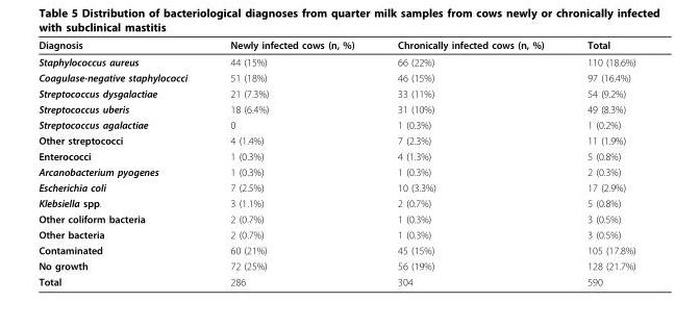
<table><thead><tr><td>Diagnosis</td><td>Newly infected cows (n, %)</td><td>Chronically infected cows (n, %)</td><td>Total</td></tr></thead><tbody><tr><td>Staphylococcus aureus</td><td>44 (15%)</td><td>66 (22%)</td><td>110 (18.6%)</td></tr><tr><td>Coagulase-negative staphylococci</td><td>51 (18%)</td><td>46 (15%)</td><td>97 (16.4%)</td></tr><tr><td>Streptococcus dysgalactiae</td><td>21 (7.3%)</td><td>33 (11%)</td><td>54 (9.2%)</td></tr><tr><td>Streptococcus uberis</td><td>18 (6.4%)</td><td>31 (10%)</td><td>49 (8.3%)</td></tr><tr><td>Streptococcus agalactiae</td><td>0</td><td>1 (0.3%)</td><td>1 (0.2%)</td></tr><tr><td>Other streptococci</td><td>4 (1.4%)</td><td>7 (2.3%)</td><td>11 (1.9%)</td></tr><tr><td>Enterococci</td><td>1 (0.3%)</td><td>4 (1.3%)</td><td>5 (0.8%)</td></tr><tr><td>Arcanobacterium pyogenes</td><td>1 (0.3%)</td><td>1 (0.3%)</td><td>2 (0.3%)</td></tr><tr><td>Escherichia coli</td><td>7 (2.5%)</td><td>10 (3.3%)</td><td>17 (2.9%)</td></tr><tr><td>Klebsiella spp.</td><td>3 (1.1%)</td><td>2 (0.7%)</td><td>5 (0.8%)</td></tr><tr><td>Other coliform bacteria</td><td>2 (0.7%)</td><td>1 (0.3%)</td><td>3 (0.5%)</td></tr><tr><td>Other bacteria</td><td>2 (0.7%)</td><td>1 (0.3%)</td><td>3 (0.5%)</td></tr><tr><td>Contaminated</td><td>60 (21%)</td><td>45 (15%)</td><td>105 (17.8%)</td></tr><tr><td>No growth</td><td>72 (25%)</td><td>56 (19%)</td><td>128 (21.7%)</td></tr><tr><td>Total</td><td>286</td><td>304</td><td>590</td></tr></tbody></table>